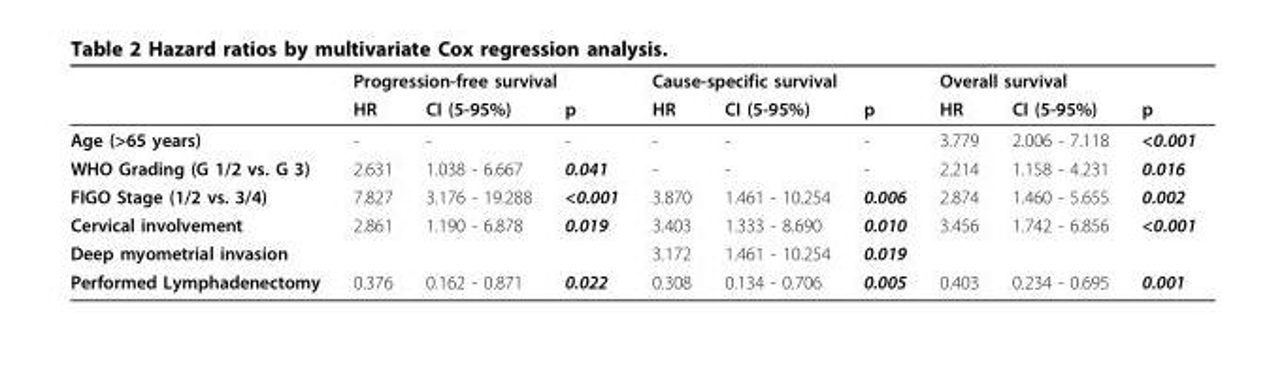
<table><thead><tr><td rowspan="2"></td><td colspan="3">Progression-free survival</td><td colspan="3">Cause-specific survival</td><td colspan="3">Overall survival</td></tr><tr><td>HR</td><td>CI (5-95%)</td><td>p</td><td>HR</td><td>CI (5-95%)</td><td>p</td><td>HR</td><td>CI (5-95%)</td><td>p</td></tr></thead><tbody><tr><td>Age (&gt;65 years)</td><td>-</td><td>-</td><td>-</td><td>-</td><td>-</td><td>-</td><td>3.779</td><td>2.006 - 7.118</td><td>&lt;0.001</td></tr><tr><td>WHO Grading (G 1/2 vs. G 3)</td><td>2.631</td><td>1.038 - 6.667</td><td>0.041</td><td>-</td><td>-</td><td>-</td><td>2.214</td><td>1.158 - 4.231</td><td>0.016</td></tr><tr><td>FIGO Stage (1/2 vs. 3/4)</td><td>7.827</td><td>3.176 - 19.288</td><td>&lt;0.001</td><td>3.870</td><td>1.461 - 10.254</td><td>0.006</td><td>2.874</td><td>1.460 - 5.655</td><td>0.002</td></tr><tr><td>Cervical involvement</td><td>2.861</td><td>1.190 - 6.878</td><td>0.019</td><td>3.403</td><td>1.333 - 8.690</td><td>0.010</td><td>3.456</td><td>1.742 - 6.856</td><td>&lt;0.001</td></tr><tr><td>Deep myometrial invasion</td><td></td><td></td><td></td><td>3.172</td><td>1.461 - 10.254</td><td>0.019</td><td></td><td></td><td></td></tr><tr><td>Performed Lymphadenectomy</td><td>0.376</td><td>0.162 - 0.871</td><td>0.022</td><td>0.308</td><td>0.134 - 0.706</td><td>0.005</td><td>0.403</td><td>0.234 - 0.695</td><td>0.001</td></tr></tbody></table>